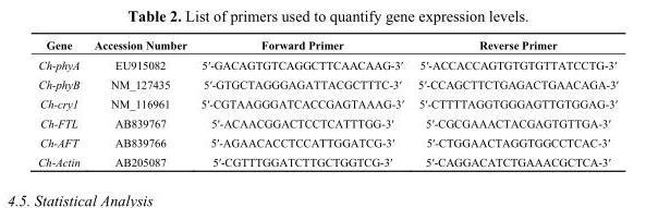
<table><thead><tr><td>Gene</td><td>Accession Number</td><td>Forward Primer</td><td>Reverse Primer</td></tr></thead><tbody><tr><td>Ch-phyA</td><td>EU915082</td><td>5′-GACAGTGTCAGGCTTCAACAAG-3′</td><td>5′-ACCACCAGTGTGTGTTATCCTG-3′</td></tr><tr><td>Ch-phyB</td><td>NM_127435</td><td>5′-GTGCTAGGGAGATTACGCTTTC-3′</td><td>5′-CCAGCTTCTGAGACTGAACAGA-3′</td></tr><tr><td>Ch-cry1</td><td>NM_116961</td><td>5′-CGTAAGGGATCACCGAGTAAAG-3′</td><td>5′-CTTTTAGGTGGGAGTTGTGGAG-3′</td></tr><tr><td>Ch-FTL</td><td>AB839767</td><td>5′-ACAACGGACTCCTCATTTGG-3′</td><td>5′-CGCGAAACTACGAGTGTTGA-3′</td></tr><tr><td>Ch-AFT</td><td>AB839766</td><td>5′-AGAACACCTCCATTGGATCG-3′</td><td>5′-CTGGAACTAGGTGGCCTCAC-3′</td></tr><tr><td>Ch-Actin</td><td>AB205087</td><td>5′-CGTTTGGATCTTGCTGGTCG-3′</td><td>5′-CAGGACATCTGAAACGCTCA-3′</td></tr></tbody></table>